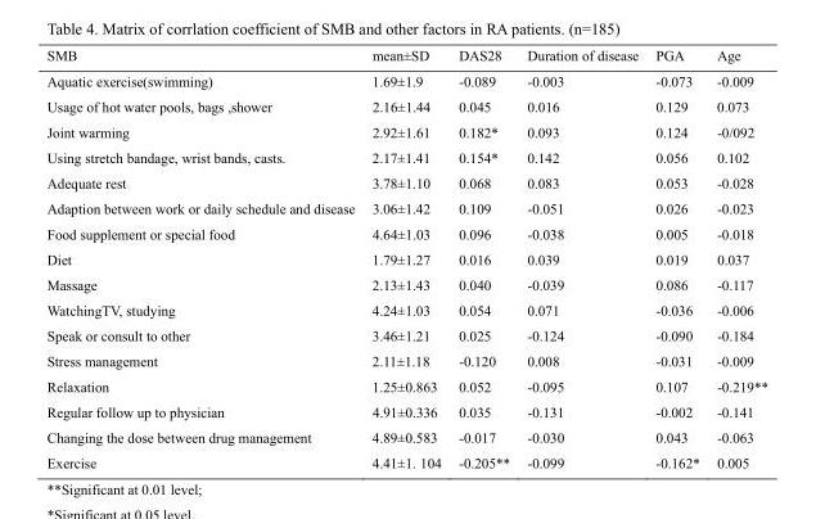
<table><thead><tr><td>SMB</td><td>mean±SD</td><td>DAS28</td><td>Duration of disease</td><td>PGA</td><td>Age</td></tr></thead><tbody><tr><td>Aquatic exercise(swimming)</td><td>1.69±1.9</td><td>-0.089</td><td>-0.003</td><td>-0.073</td><td>-0.009</td></tr><tr><td>Usage of hot water pools, bags ,shower</td><td>2.16±1.44</td><td>0.045</td><td>0.016</td><td>0.129</td><td>0.073</td></tr><tr><td>Joint warming</td><td>2.92±1.61</td><td>0.182*</td><td>0.093</td><td>0.124</td><td>-0/092</td></tr><tr><td>Using stretch bandage, wrist bands, casts.</td><td>2.17±1.41</td><td>0.154*</td><td>0.142</td><td>0.056</td><td>0.102</td></tr><tr><td>Adequate rest</td><td>3.78±1.10</td><td>0.068</td><td>0.083</td><td>0.053</td><td>-0.028</td></tr><tr><td>Adaption between work or daily schedule and disease</td><td>3.06±1.42</td><td>0.109</td><td>-0.051</td><td>0.026</td><td>-0.023</td></tr><tr><td>Food supplement or special food</td><td>4.64±1.03</td><td>0.096</td><td>-0.038</td><td>0.005</td><td>-0.018</td></tr><tr><td>Diet</td><td>1.79±1.27</td><td>0.016</td><td>0.039</td><td>0.019</td><td>0.037</td></tr><tr><td>Massage</td><td>2.13±1.43</td><td>0.040</td><td>-0.039</td><td>0.086</td><td>-0.117</td></tr><tr><td>WatchingTV, studying</td><td>4.24±1.03</td><td>0.054</td><td>0.071</td><td>-0.036</td><td>-0.006</td></tr><tr><td>Speak or consult to other</td><td>3.46±1.21</td><td>0.025</td><td>-0.124</td><td>-0.090</td><td>-0.184</td></tr><tr><td>Stress management</td><td>2.11±1.18</td><td>-0.120</td><td>0.008</td><td>-0.031</td><td>-0.009</td></tr><tr><td>Relaxation</td><td>1.25±0.863</td><td>0.052</td><td>-0.095</td><td>0.107</td><td>-0.219**</td></tr><tr><td>Regular follow up to physician</td><td>4.91±0.336</td><td>0.035</td><td>-0.131</td><td>-0.002</td><td>-0.141</td></tr><tr><td>Changing the dose between drug management</td><td>4.89±0.583</td><td>-0.017</td><td>-0.030</td><td>0.043</td><td>-0.063</td></tr><tr><td>Exercise</td><td>4.41±1. 104</td><td>-0.205**</td><td>-0.099</td><td>-0.162*</td><td>0.005</td></tr></tbody></table>